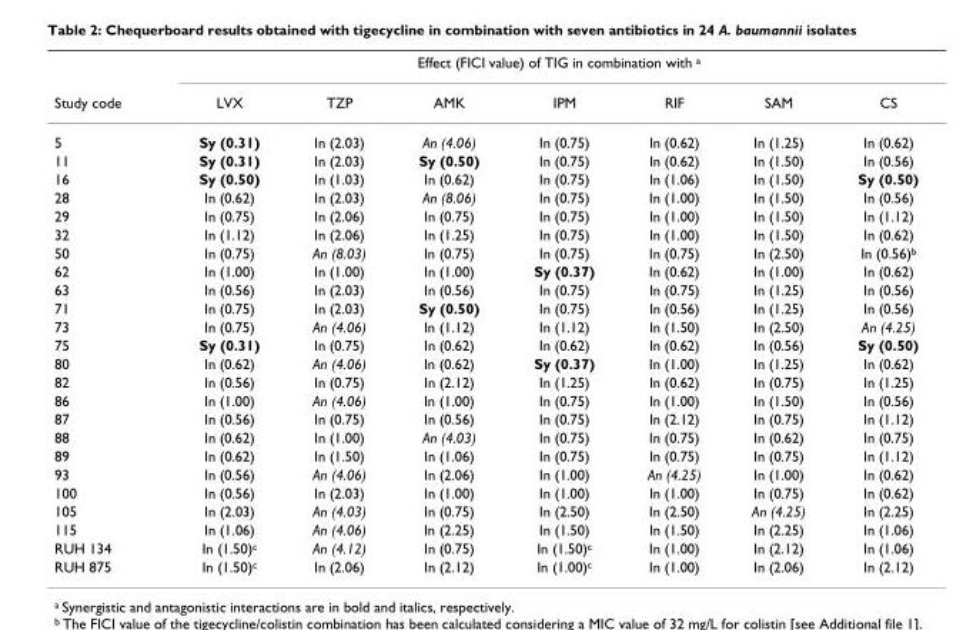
<table><thead><tr><td rowspan="2">Study code</td><td colspan="7">Effect (FICI value) of TIG in combination with <sup>a</sup></td></tr><tr><td>LVX</td><td>TZP</td><td>AMK</td><td>IPM</td><td>RIF</td><td>SAM</td><td>CS</td></tr></thead><tbody><tr><td>5</td><td>Sy (0.31)</td><td>In (2.03)</td><td>An (4.06)</td><td>In (0.75)</td><td>In (0.62)</td><td>In (1.25)</td><td>In (0.62)</td></tr><tr><td>11</td><td>Sy (0.31)</td><td>In (2.03)</td><td>Sy (0.50)</td><td>In (0.75)</td><td>In (0.62)</td><td>In (1.50)</td><td>In (0.56)</td></tr><tr><td>16</td><td>Sy (0.50)</td><td>In (1.03)</td><td>In (0.62)</td><td>In (0.75)</td><td>In (1.06)</td><td>In (1.50)</td><td>Sy (0.50)</td></tr><tr><td>28</td><td>In (0.62)</td><td>In (2.03)</td><td>An (8.06)</td><td>In (0.75)</td><td>In (1.00)</td><td>In (1.50)</td><td>In (0.56)</td></tr><tr><td>29</td><td>In (0.75)</td><td>In (2.06)</td><td>In (0.75)</td><td>In (0.75)</td><td>In (1.00)</td><td>In (1.50)</td><td>In (1.12)</td></tr><tr><td>32</td><td>In (1.12)</td><td>In (2.06)</td><td>In (1.25)</td><td>In (0.75)</td><td>In (1.00)</td><td>In (1.50)</td><td>In (0.62)</td></tr><tr><td>50</td><td>In (0.75)</td><td>An (8.03)</td><td>In (0.75)</td><td>In (0.75)</td><td>In (0.75)</td><td>In (2.50)</td><td>In (0.56)<sup>b</sup></td></tr><tr><td>62</td><td>In (1.00)</td><td>In (1.00)</td><td>In (1.00)</td><td>Sy (0.37)</td><td>In (0.62)</td><td>In (1.00)</td><td>In (0.62)</td></tr><tr><td>63</td><td>In (0.56)</td><td>In (2.03)</td><td>In (0.56)</td><td>In (0.75)</td><td>In (0.75)</td><td>In (1.25)</td><td>In (0.56)</td></tr><tr><td>71</td><td>In (0.75)</td><td>In (2.03)</td><td>Sy (0.50)</td><td>In (0.75)</td><td>In (0.56)</td><td>In (1.25)</td><td>In (0.56)</td></tr><tr><td>73</td><td>In (0.75)</td><td>An (4.06)</td><td>In (1.12)</td><td>In (1.12)</td><td>In (1.50)</td><td>In (2.50)</td><td>An (4.25)</td></tr><tr><td>75</td><td>Sy (0.31)</td><td>In (0.75)</td><td>In (0.62)</td><td>In (0.62)</td><td>In (0.62)</td><td>In (0.56)</td><td>Sy (0.50)</td></tr><tr><td>80</td><td>In (0.62)</td><td>An (4.06)</td><td>In (0.62)</td><td>Sy (0.37)</td><td>In (1.00)</td><td>In (1.25)</td><td>In (0.62)</td></tr><tr><td>82</td><td>In (0.56)</td><td>In (0.75)</td><td>In (2.12)</td><td>In (1.25)</td><td>In (0.62)</td><td>In (0.75)</td><td>In (1.25)</td></tr><tr><td>86</td><td>In (1.00)</td><td>An (4.06)</td><td>In (1.00)</td><td>In (0.75)</td><td>In (1.00)</td><td>In (1.50)</td><td>In (0.56)</td></tr><tr><td>87</td><td>In (0.56)</td><td>In (0.75)</td><td>In (0.56)</td><td>In (0.75)</td><td>In (2.12)</td><td>In (0.75)</td><td>In (1.12)</td></tr><tr><td>88</td><td>In (0.62)</td><td>In (1.00)</td><td>An (4.03)</td><td>In (0.75)</td><td>In (0.75)</td><td>In (0.62)</td><td>In (0.75)</td></tr><tr><td>89</td><td>In (0.62)</td><td>In (1.50)</td><td>In (1.06)</td><td>In (0.75)</td><td>In (0.75)</td><td>In (0.75)</td><td>In (1.12)</td></tr><tr><td>93</td><td>In (0.56)</td><td>An (4.06)</td><td>In (2.06)</td><td>In (1.00)</td><td>An (4.25)</td><td>In (1.00)</td><td>In (0.62)</td></tr><tr><td>100</td><td>In (0.56)</td><td>In (2.03)</td><td>In (1.00)</td><td>In (1.00)</td><td>In (1.00)</td><td>In (0.75)</td><td>In (0.62)</td></tr><tr><td>105</td><td>In (2.03)</td><td>An (4.03)</td><td>In (0.75)</td><td>In (2.50)</td><td>In (2.50)</td><td>An (4.25)</td><td>In (2.25)</td></tr><tr><td>115</td><td>In (1.06)</td><td>An (4.06)</td><td>In (2.25)</td><td>In (1.50)</td><td>In (1.50)</td><td>In (2.25)</td><td>In (1.06)</td></tr><tr><td>RUH 134</td><td>In (1.50)<sup>c</sup></td><td>An (4.12)</td><td>In (0.75)</td><td>In (1.50)<sup>c</sup></td><td>In (1.00)</td><td>In (2.12)</td><td>In (1.06)</td></tr><tr><td>RUH 875</td><td>In (1.50)<sup>c</sup></td><td>In (2.06)</td><td>In (2.12)</td><td>In (1.00)<sup>c</sup></td><td>In (1.00)</td><td>In (2.06)</td><td>In (2.12)</td></tr></tbody></table>